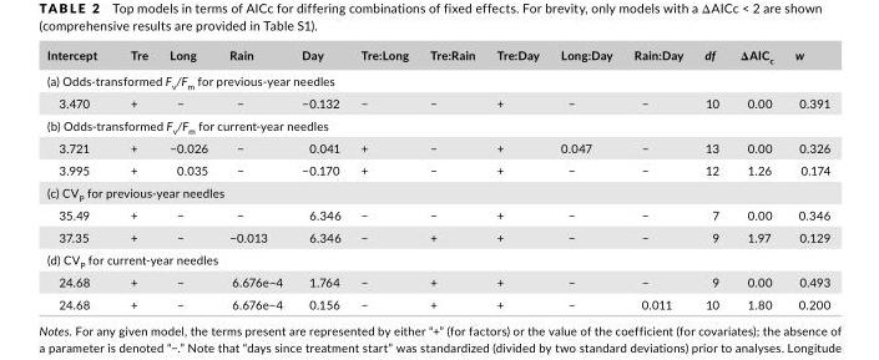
<table><thead><tr><td>Intercept</td><td>Tre</td><td>Long</td><td>Rain</td><td>Day</td><td>Tre:Long</td><td>Tre:Rain</td><td>Tre:Day</td><td>Long:Day</td><td>Rain:Day</td><td>df</td><td>ΔAIC<sub>c</sub></td><td>w</td></tr></thead><tbody><tr><td colspan="13">(a) Odds- transformed F<sub>v</sub>/F<sub>m</sub> for previous- year needles</td></tr><tr><td>3.470</td><td>+</td><td>−</td><td>−</td><td>−0.132</td><td>−</td><td>−</td><td>+</td><td>−</td><td>−</td><td>10</td><td>0.00</td><td>0.391</td></tr><tr><td colspan="13">(b) Odds- transformed F<sub>v</sub>/F<sub>m</sub> for current- year needles</td></tr><tr><td>3.721</td><td>+</td><td>−0.026</td><td>−</td><td>0.041</td><td>+</td><td>−</td><td>+</td><td>0.047</td><td>−</td><td>13</td><td>0.00</td><td>0.326</td></tr><tr><td>3.995</td><td>+</td><td>0.035</td><td>−</td><td>−0.170</td><td>+</td><td>−</td><td>+</td><td>−</td><td>−</td><td>12</td><td>1.26</td><td>0.174</td></tr><tr><td colspan="13">(c) CV<sub>P</sub> for previous- year needles</td></tr><tr><td>35.49</td><td>+</td><td>−</td><td>−</td><td>6.346</td><td>−</td><td>−</td><td>+</td><td>−</td><td>−</td><td>7</td><td>0.00</td><td>0.346</td></tr><tr><td>37.35</td><td>+</td><td>−</td><td>−0.013</td><td>6.346</td><td>−</td><td>+</td><td>+</td><td>−</td><td>−</td><td>9</td><td>1.97</td><td>0.129</td></tr><tr><td colspan="13">(d) CV<sub>P</sub> for current- year needles</td></tr><tr><td>24.68</td><td>+</td><td>−</td><td>6.676e−4</td><td>1.764</td><td>−</td><td>+</td><td>+</td><td>−</td><td>−</td><td>9</td><td>0.00</td><td>0.493</td></tr><tr><td>24.68</td><td>+</td><td>−</td><td>6.676e−4</td><td>0.156</td><td>−</td><td>+</td><td>+</td><td>−</td><td>0.011</td><td>10</td><td>1.80</td><td>0.200</td></tr></tbody></table>